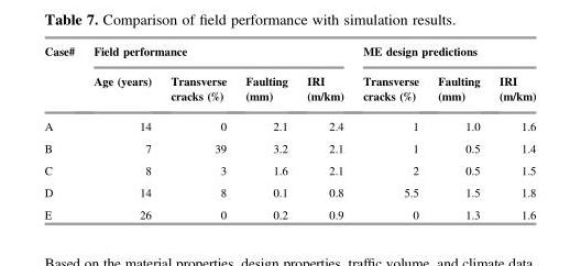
<table><thead><tr><td rowspan="2">Case#</td><td colspan="4">Field performance</td><td colspan="3">ME design predictions</td></tr><tr><td>Age (years)</td><td>Transverse cracks (%)</td><td>Faulting (mm)</td><td>IRI (m/km)</td><td>Transverse cracks (%)</td><td>Faulting (mm)</td><td>IRI (m/km)</td></tr></thead><tbody><tr><td>A</td><td>14</td><td>0</td><td>2.1</td><td>2.4</td><td>1</td><td>1.0</td><td>1.6</td></tr><tr><td>B</td><td>7</td><td>39</td><td>3.2</td><td>2.1</td><td>1</td><td>0.5</td><td>1.4</td></tr><tr><td>C</td><td>8</td><td>3</td><td>1.6</td><td>2.1</td><td>2</td><td>0.5</td><td>1.5</td></tr><tr><td>D</td><td>14</td><td>8</td><td>0.1</td><td>0.8</td><td>5.5</td><td>1.5</td><td>1.8</td></tr><tr><td>E</td><td>26</td><td>0</td><td>0.2</td><td>0.9</td><td>0</td><td>1.3</td><td>1.6</td></tr></tbody></table>